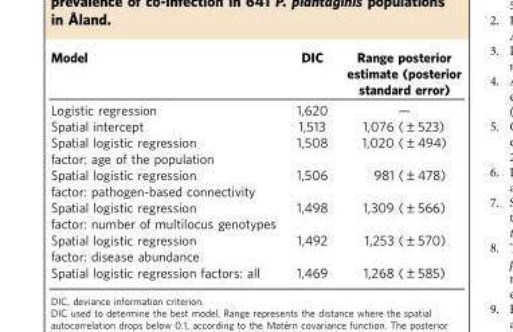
<table><thead><tr><td>Model</td><td>DIC</td><td>Range posterior estimate (posterior standard error)</td></tr></thead><tbody><tr><td>Logistic regression</td><td>1,620</td><td>—</td></tr><tr><td>Spatial intercept</td><td>1,513</td><td>1,076 (±523)</td></tr><tr><td>Spatial logistic regression factor: age of the population</td><td>1,508</td><td>1,020 (±494)</td></tr><tr><td>Spatial logistic regression factor: pathogen-based connectivity</td><td>1,506</td><td>981 (±478)</td></tr><tr><td>Spatial logistic regression factor: number of multilocus genotypes</td><td>1,498</td><td>1,309 (±566)</td></tr><tr><td>Spatial logistic regression factor: disease abundance</td><td>1,492</td><td>1,253 (±570)</td></tr><tr><td>Spatial logistic regression factors: all</td><td>1,469</td><td>1,268 (±585)</td></tr></tbody></table>